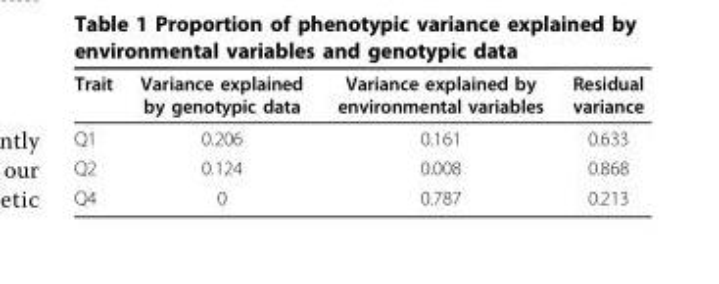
<table><thead><tr><td>Trait</td><td>Variance explained by genotypic data</td><td>Variance explained by environmental variables</td><td>Residual variance</td></tr></thead><tbody><tr><td>Q1</td><td>0.206</td><td>0.161</td><td>0.633</td></tr><tr><td>Q2</td><td>0.124</td><td>0.008</td><td>0.868</td></tr><tr><td>Q4</td><td>0</td><td>0.787</td><td>0.213</td></tr></tbody></table>